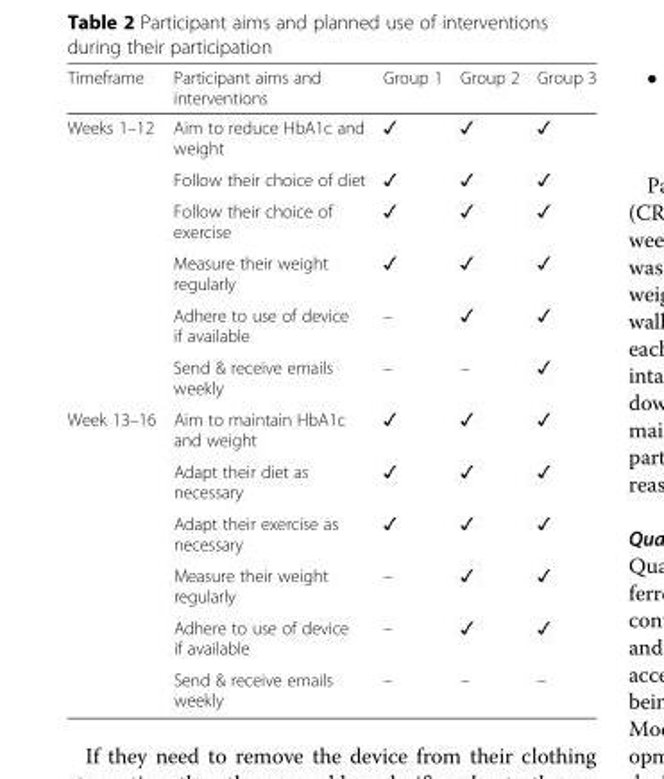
<table><thead><tr><td>Timeframe</td><td>Participant aims and interventions</td><td>Group 1</td><td>Group 2</td><td>Group 3</td></tr></thead><tbody><tr><td rowspan="6">Weeks 1–12</td><td>Aim to reduce HbA1c and weight</td><td>✓</td><td>✓</td><td>✓</td></tr><tr><td>Follow their choice of diet</td><td>✓</td><td>✓</td><td>✓</td></tr><tr><td>Follow their choice of exercise</td><td>✓</td><td>✓</td><td>✓</td></tr><tr><td>Measure their weight regularly</td><td>✓</td><td>✓</td><td>✓</td></tr><tr><td>Adhere to use of device if available</td><td>–</td><td>✓</td><td>✓</td></tr><tr><td>Send &amp; receive emails weekly</td><td>–</td><td>–</td><td>✓</td></tr><tr><td rowspan="6">Week 13–16</td><td>Aim to maintain HbA1c and weight</td><td>✓</td><td>✓</td><td>✓</td></tr><tr><td>Adapt their diet as necessary</td><td>✓</td><td>✓</td><td>✓</td></tr><tr><td>Adapt their exercise as necessary</td><td>✓</td><td>✓</td><td>✓</td></tr><tr><td>Measure their weight regularly</td><td>–</td><td>✓</td><td>✓</td></tr><tr><td>Adhere to use of device if available</td><td>–</td><td>✓</td><td>✓</td></tr><tr><td>Send &amp; receive emails weekly</td><td>–</td><td>–</td><td>–</td></tr></tbody></table>